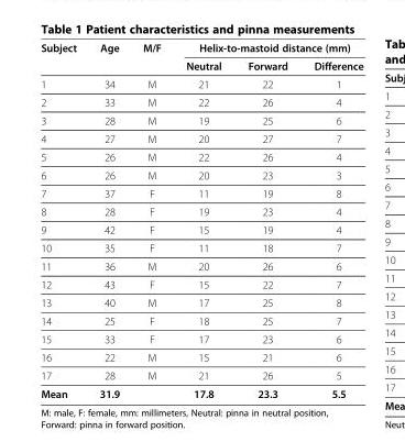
<table><thead><tr><td rowspan="2">Subject</td><td rowspan="2">Age</td><td rowspan="2">M/F</td><td colspan="3">Helix-to-mastoid distance (mm)</td></tr><tr><td>Neutral</td><td>Forward</td><td>Difference</td></tr></thead><tbody><tr><td>1</td><td>34</td><td>M</td><td>21</td><td>22</td><td>1</td></tr><tr><td>2</td><td>33</td><td>M</td><td>22</td><td>26</td><td>4</td></tr><tr><td>3</td><td>28</td><td>M</td><td>19</td><td>25</td><td>6</td></tr><tr><td>4</td><td>27</td><td>M</td><td>20</td><td>27</td><td>7</td></tr><tr><td>5</td><td>26</td><td>M</td><td>22</td><td>26</td><td>4</td></tr><tr><td>6</td><td>26</td><td>M</td><td>20</td><td>23</td><td>3</td></tr><tr><td>7</td><td>37</td><td>F</td><td>11</td><td>19</td><td>8</td></tr><tr><td>8</td><td>28</td><td>F</td><td>19</td><td>23</td><td>4</td></tr><tr><td>9</td><td>42</td><td>F</td><td>15</td><td>19</td><td>4</td></tr><tr><td>10</td><td>35</td><td>F</td><td>11</td><td>18</td><td>7</td></tr><tr><td>11</td><td>36</td><td>M</td><td>20</td><td>26</td><td>6</td></tr><tr><td>12</td><td>43</td><td>F</td><td>15</td><td>22</td><td>7</td></tr><tr><td>13</td><td>40</td><td>M</td><td>17</td><td>25</td><td>8</td></tr><tr><td>14</td><td>25</td><td>F</td><td>18</td><td>25</td><td>7</td></tr><tr><td>15</td><td>33</td><td>F</td><td>17</td><td>23</td><td>6</td></tr><tr><td>16</td><td>22</td><td>M</td><td>15</td><td>21</td><td>6</td></tr><tr><td>17</td><td>28</td><td>M</td><td>21</td><td>26</td><td>5</td></tr><tr><td>Mean</td><td>31.9</td><td></td><td>17.8</td><td>23.3</td><td>5.5</td></tr></tbody></table>